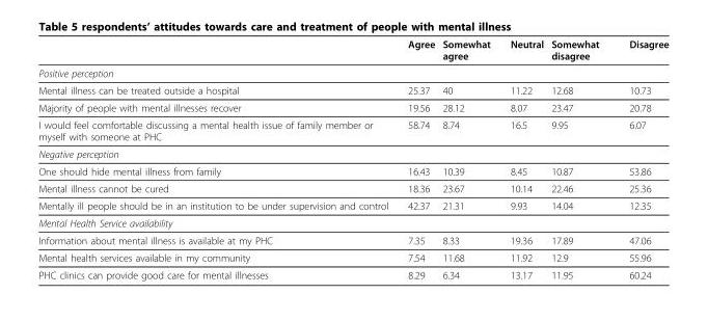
<table><thead><tr><td></td><td>Agree</td><td>Somewhat agree</td><td>Neutral</td><td>Somewhat disagree</td><td>Disagree</td></tr></thead><tbody><tr><td colspan="6">Positive perception</td></tr><tr><td>Mental illness can be treated outside a hospital</td><td>25.37</td><td>40</td><td>11.22</td><td>12.68</td><td>10.73</td></tr><tr><td>Majority of people with mental illnesses recover</td><td>19.56</td><td>28.12</td><td>8.07</td><td>23.47</td><td>20.78</td></tr><tr><td>I would feel comfortable discussing a mental health issue of family member or myself with someone at PHC</td><td>58.74</td><td>8.74</td><td>16.5</td><td>9.95</td><td>6.07</td></tr><tr><td colspan="6">Negative perception</td></tr><tr><td>One should hide mental illness from family</td><td>16.43</td><td>10.39</td><td>8.45</td><td>10.87</td><td>53.86</td></tr><tr><td>Mental illness cannot be cured</td><td>18.36</td><td>23.67</td><td>10.14</td><td>22.46</td><td>25.36</td></tr><tr><td>Mentally ill people should be in an institution to be under supervision and control</td><td>42.37</td><td>21.31</td><td>9.93</td><td>14.04</td><td>12.35</td></tr><tr><td colspan="6">Mental Health Service availability</td></tr><tr><td>Information about mental illness is available at my PHC</td><td>7.35</td><td>8.33</td><td>19.36</td><td>17.89</td><td>47.06</td></tr><tr><td>Mental health services available in my community</td><td>7.54</td><td>11.68</td><td>11.92</td><td>12.9</td><td>55.96</td></tr><tr><td>PHC clinics can provide good care for mental illnesses</td><td>8.29</td><td>6.34</td><td>13.17</td><td>11.95</td><td>60.24</td></tr></tbody></table>